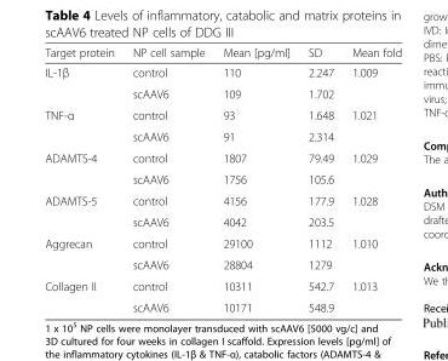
<table><thead><tr><td>Target protein</td><td>NP cell sample</td><td>Mean [pg/ml]</td><td>SD</td><td>Mean fold</td></tr></thead><tbody><tr><td rowspan="2">IL-1β</td><td>control</td><td>110</td><td>2.247</td><td rowspan="2">1.009</td></tr><tr><td>scAAV6</td><td>109</td><td>1.702</td></tr><tr><td rowspan="2">TNF-α</td><td>control</td><td>93</td><td>1.648</td><td rowspan="2">1.021</td></tr><tr><td>scAAV6</td><td>91</td><td>2.314</td></tr><tr><td rowspan="2">ADAMTS-4</td><td>control</td><td>1807</td><td>79.49</td><td rowspan="2">1.029</td></tr><tr><td>scAAV6</td><td>1756</td><td>105.6</td></tr><tr><td rowspan="2">ADAMTS-5</td><td>control</td><td>4156</td><td>177.9</td><td rowspan="2">1.028</td></tr><tr><td>scAAV6</td><td>4042</td><td>203.5</td></tr><tr><td rowspan="2">Aggrecan</td><td>control</td><td>29100</td><td>1112</td><td rowspan="2">1.010</td></tr><tr><td>scAAV6</td><td>28804</td><td>1279</td></tr><tr><td rowspan="2">Collagen II</td><td>control</td><td>10311</td><td>542.7</td><td rowspan="2">1.013</td></tr><tr><td>scAAV6</td><td>10171</td><td>548.9</td></tr></tbody></table>